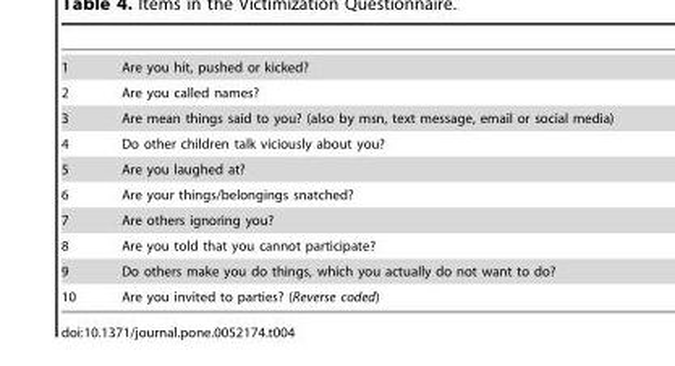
<table><tbody><tr><td>1</td><td>Are you hit, pushed or kicked?</td></tr><tr><td>2</td><td>Are you called names?</td></tr><tr><td>3</td><td>Are mean things said to you? (also by msn, text message, email or social media)</td></tr><tr><td>4</td><td>Do other children talk viciously about you?</td></tr><tr><td>5</td><td>Are you laughed at?</td></tr><tr><td>6</td><td>Are your things/belongings snatched?</td></tr><tr><td>7</td><td>Are others ignoring you?</td></tr><tr><td>8</td><td>Are you told that you cannot participate?</td></tr><tr><td>9</td><td>Do others make you do things, which you actually do not want to do?</td></tr><tr><td>10</td><td>Are you invited to parties? (Reverse coded)</td></tr></tbody></table>